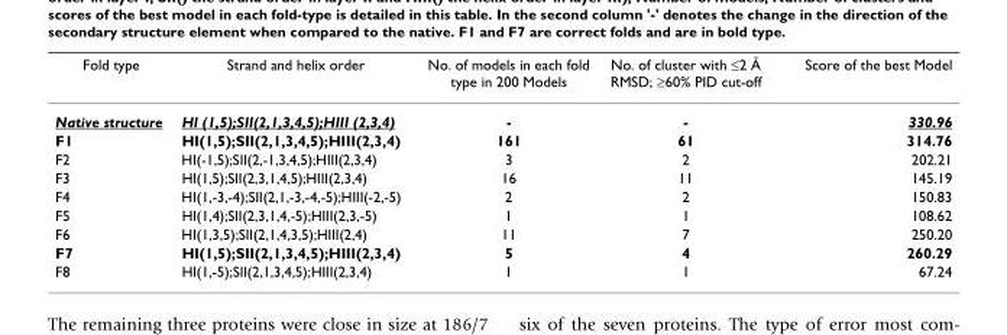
<table><thead><tr><td>Fold type</td><td>Strand and helix order</td><td>No. of models in each fold type in 200 Models</td><td>No. of cluster with ≤2 Å RMSD; ≥60% PID cut-off</td><td>Score of the best Model</td></tr></thead><tbody><tr><td>Native structure</td><td>HI (1,5);SII(2,1,3,4,5);HIII (2,3,4)</td><td>-</td><td>-</td><td>330.96</td></tr><tr><td>F1</td><td>HI(1,5);SII(2,1,3,4,5);HIII(2,3,4)</td><td>161</td><td>61</td><td>314.76</td></tr><tr><td>F2</td><td>HI(-1,5);SII(2,-1,3,4,5);HIII(2,3,4)</td><td>3</td><td>2</td><td>202.21</td></tr><tr><td>F3</td><td>HI(1,5);SII(2,3,1,4,5);HIII(2,3,4)</td><td>16</td><td>11</td><td>145.19</td></tr><tr><td>F4</td><td>HI(1,-3,-4);SII(2,1,-3,-4,-5);HIII(-2,-5)</td><td>2</td><td>2</td><td>150.83</td></tr><tr><td>F5</td><td>HI(1,4);SII(2,3,1,4,-5);HIII(2,3,-5)</td><td>1</td><td>1</td><td>108.62</td></tr><tr><td>F6</td><td>HI(1,3,5);SII(2,1,4,3,5);HIII(2,4)</td><td>11</td><td>7</td><td>250.20</td></tr><tr><td>F7</td><td>HI(1,5);SII(2,1,3,4,5);HIII(2,3,4)</td><td>5</td><td>4</td><td>260.29</td></tr><tr><td>F8</td><td>HI(1,-5);SII(2,1,3,4,5);HIII(2,3,4)</td><td>1</td><td>1</td><td>67.24</td></tr></tbody></table>